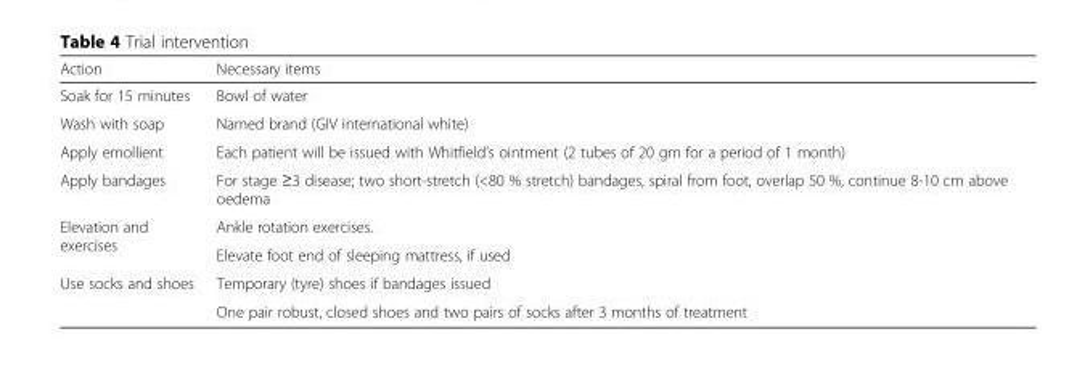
<table><thead><tr><td>Action</td><td>Necessary items</td></tr></thead><tbody><tr><td>Soak for 15 minutes</td><td>Bowl of water</td></tr><tr><td>Wash with soap</td><td>Named brand (GIV international white)</td></tr><tr><td>Apply emollient</td><td>Each patient will be issued with Whitfield’s ointment (2 tubes of 20 gm for a period of 1 month)</td></tr><tr><td>Apply bandages</td><td>For stage ≥3 disease; two short-stretch (&lt;80 % stretch) bandages, spiral from foot, overlap 50 %, continue 8-10 cm above oedema</td></tr><tr><td rowspan="2">Elevation and exercises</td><td>Ankle rotation exercises.</td></tr><tr><td>Elevate foot end of sleeping mattress, if used</td></tr><tr><td rowspan="2">Use socks and shoes</td><td>Temporary (tyre) shoes if bandages issued</td></tr><tr><td>One pair robust, closed shoes and two pairs of socks after 3 months of treatment</td></tr></tbody></table>